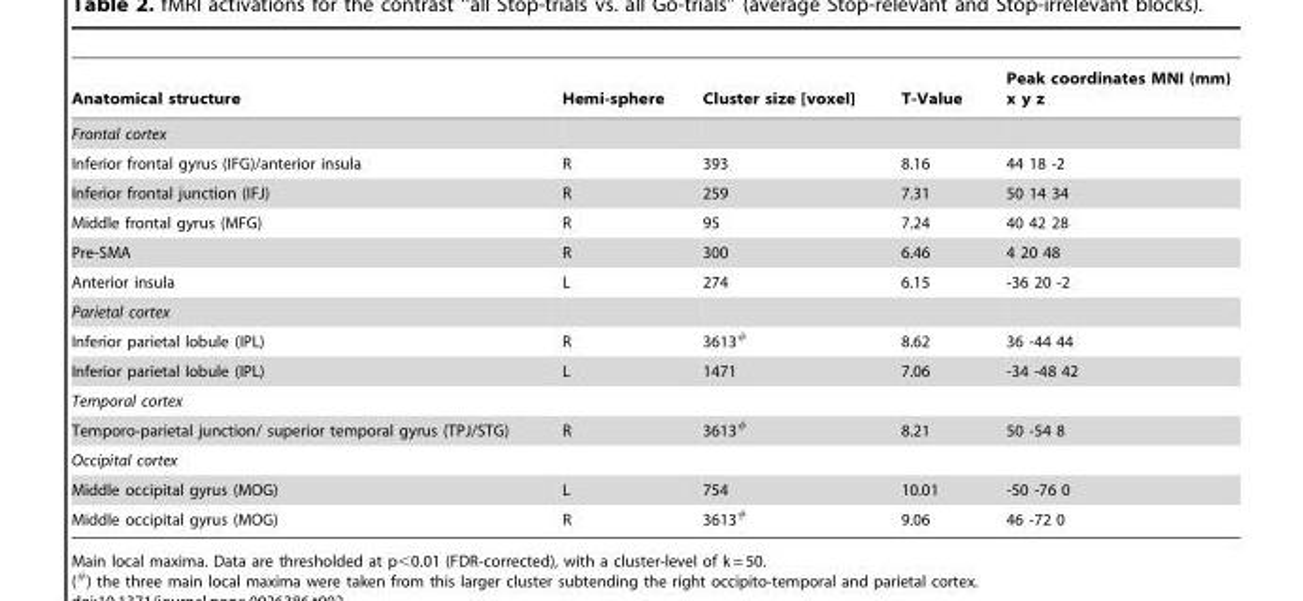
<table><thead><tr><td>Anatomical structure</td><td>Hemi-sphere</td><td>Cluster size [voxel]</td><td>T-Value</td><td>Peak coordinates MNI (mm) x y z</td></tr></thead><tbody><tr><td colspan="5">Frontal cortex</td></tr><tr><td>Inferior frontal gyrus (IFG)/anterior insula</td><td>R</td><td>393</td><td>8.16</td><td>44 18 -2</td></tr><tr><td>Inferior frontal junction (IFJ)</td><td>R</td><td>259</td><td>7.31</td><td>50 14 34</td></tr><tr><td>Middle frontal gyrus (MFG)</td><td>R</td><td>95</td><td>7.24</td><td>40 42 28</td></tr><tr><td>Pre-SMA</td><td>R</td><td>300</td><td>6.46</td><td>4 20 48</td></tr><tr><td>Anterior insula</td><td>L</td><td>274</td><td>6.15</td><td>-36 20 -2</td></tr><tr><td colspan="5">Parietal cortex</td></tr><tr><td>Inferior parietal lobule (IPL)</td><td>R</td><td>3613#</td><td>8.62</td><td>36 -44 44</td></tr><tr><td>Inferior parietal lobule (IPL)</td><td>L</td><td>1471</td><td>7.06</td><td>-34 -48 42</td></tr><tr><td colspan="5">Temporal cortex</td></tr><tr><td>Temporo-parietal junction/ superior temporal gyrus (TPJ/STG)</td><td>R</td><td>3613#</td><td>8.21</td><td>50 -54 8</td></tr><tr><td colspan="5">Occipital cortex</td></tr><tr><td>Middle occipital gyrus (MOG)</td><td>L</td><td>754</td><td>10.01</td><td>-50 -76 0</td></tr><tr><td>Middle occipital gyrus (MOG)</td><td>R</td><td>3613#</td><td>9.06</td><td>46 -72 0</td></tr></tbody></table>